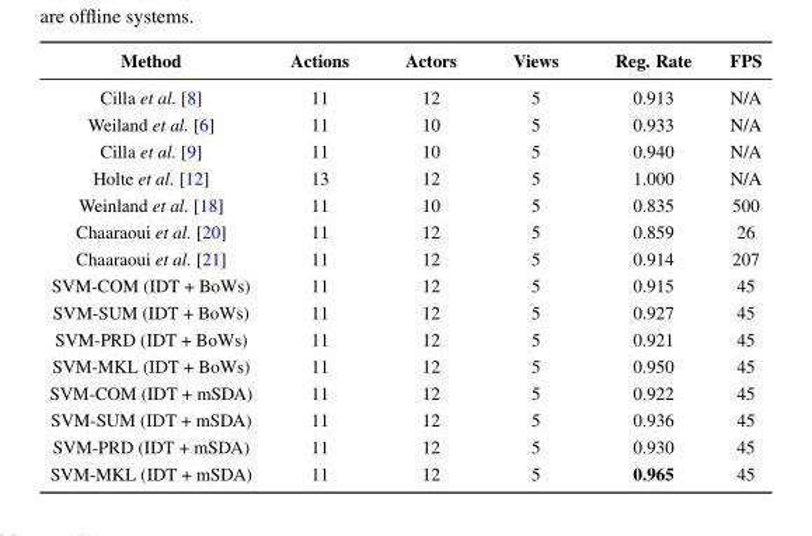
<table><thead><tr><td>Method</td><td>Actions</td><td>Actors</td><td>Views</td><td>Reg. Rate</td><td>FPS</td></tr></thead><tbody><tr><td>Cilla et al. [8]</td><td>11</td><td>12</td><td>5</td><td>0.913</td><td>N/A</td></tr><tr><td>Weiland et al. [6]</td><td>11</td><td>10</td><td>5</td><td>0.933</td><td>N/A</td></tr><tr><td>Cilla et al. [9]</td><td>11</td><td>10</td><td>5</td><td>0.940</td><td>N/A</td></tr><tr><td>Holte et al. [12]</td><td>13</td><td>12</td><td>5</td><td>1.000</td><td>N/A</td></tr><tr><td>Weinland et al. [18]</td><td>11</td><td>10</td><td>5</td><td>0.835</td><td>500</td></tr><tr><td>Chaaraoui et al. [20]</td><td>11</td><td>12</td><td>5</td><td>0.859</td><td>26</td></tr><tr><td>Chaaraoui et al. [21]</td><td>11</td><td>12</td><td>5</td><td>0.914</td><td>207</td></tr><tr><td>SVM-COM (IDT + BoWs)</td><td>11</td><td>12</td><td>5</td><td>0.915</td><td>45</td></tr><tr><td>SVM-SUM (IDT + BoWs)</td><td>11</td><td>12</td><td>5</td><td>0.927</td><td>45</td></tr><tr><td>SVM-PRD (IDT + BoWs)</td><td>11</td><td>12</td><td>5</td><td>0.921</td><td>45</td></tr><tr><td>SVM-MKL (IDT + BoWs)</td><td>11</td><td>12</td><td>5</td><td>0.950</td><td>45</td></tr><tr><td>SVM-COM (IDT + mSDA)</td><td>11</td><td>12</td><td>5</td><td>0.922</td><td>45</td></tr><tr><td>SVM-SUM (IDT + mSDA)</td><td>11</td><td>12</td><td>5</td><td>0.936</td><td>45</td></tr><tr><td>SVM-PRD (IDT + mSDA)</td><td>11</td><td>12</td><td>5</td><td>0.930</td><td>45</td></tr><tr><td>SVM-MKL (IDT + mSDA)</td><td>11</td><td>12</td><td>5</td><td>0.965</td><td>45</td></tr></tbody></table>